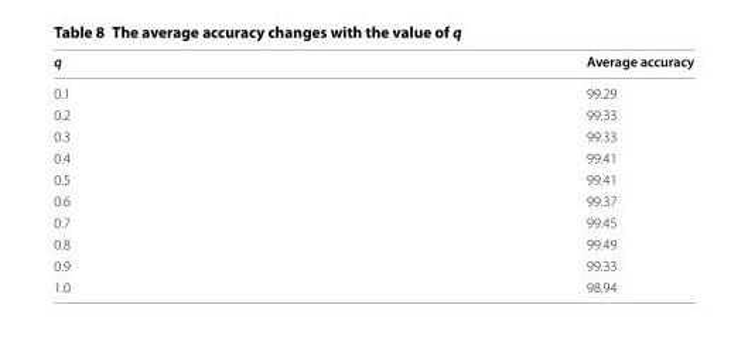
<table><thead><tr><td>q</td><td>Average accuracy</td></tr></thead><tbody><tr><td>0.1</td><td>99.29</td></tr><tr><td>0.2</td><td>99.33</td></tr><tr><td>0.3</td><td>99.33</td></tr><tr><td>0.4</td><td>99.41</td></tr><tr><td>0.5</td><td>99.41</td></tr><tr><td>0.6</td><td>99.37</td></tr><tr><td>0.7</td><td>99.45</td></tr><tr><td>0.8</td><td>99.49</td></tr><tr><td>0.9</td><td>99.33</td></tr><tr><td>1.0</td><td>98.94</td></tr></tbody></table>